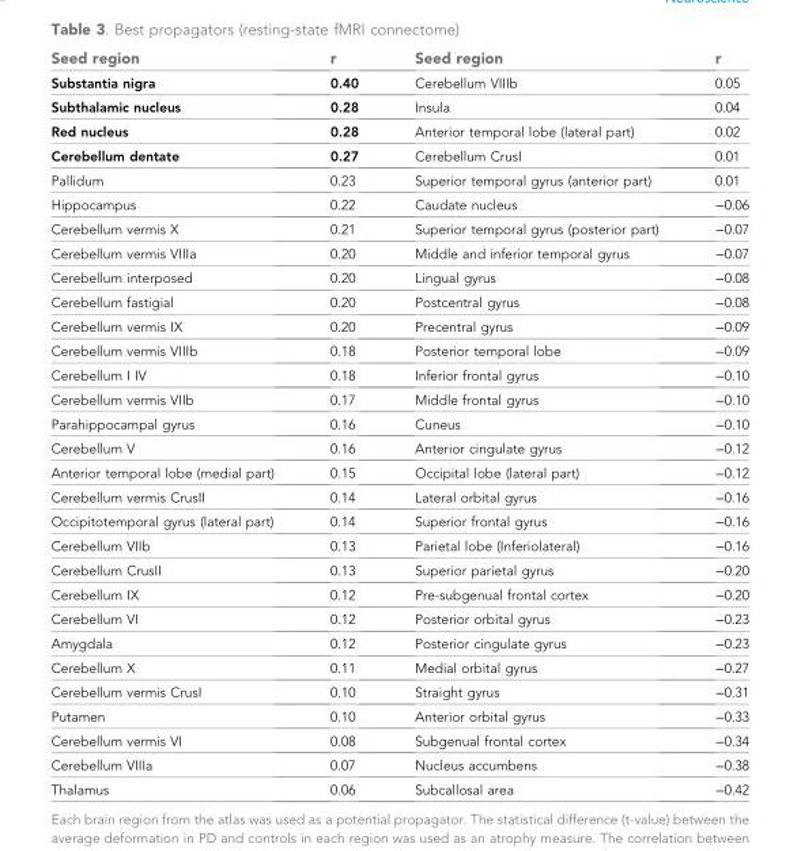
<table><thead><tr><td>Seed region</td><td>r</td><td>Seed region</td><td>r</td></tr></thead><tbody><tr><td>Substantia nigra</td><td>0.40</td><td>Cerebellum VIIIb</td><td>0.05</td></tr><tr><td>Subthalamic nucleus</td><td>0.28</td><td>Insula</td><td>0.04</td></tr><tr><td>Red nucleus</td><td>0.28</td><td>Anterior temporal lobe (lateral part)</td><td>0.02</td></tr><tr><td>Cerebellum dentate</td><td>0.27</td><td>Cerebellum CrusI</td><td>0.01</td></tr><tr><td>Pallidum</td><td>0.23</td><td>Superior temporal gyrus (anterior part)</td><td>0.01</td></tr><tr><td>Hippocampus</td><td>0.22</td><td>Caudate nucleus</td><td>−0.06</td></tr><tr><td>Cerebellum vermis X</td><td>0.21</td><td>Superior temporal gyrus (posterior part)</td><td>−0.07</td></tr><tr><td>Cerebellum vermis VIIIa</td><td>0.20</td><td>Middle and inferior temporal gyrus</td><td>−0.07</td></tr><tr><td>Cerebellum interposed</td><td>0.20</td><td>Lingual gyrus</td><td>−0.08</td></tr><tr><td>Cerebellum fastigial</td><td>0.20</td><td>Postcentral gyrus</td><td>−0.08</td></tr><tr><td>Cerebellum vermis IX</td><td>0.20</td><td>Precentral gyrus</td><td>−0.09</td></tr><tr><td>Cerebellum vermis VIIIb</td><td>0.18</td><td>Posterior temporal lobe</td><td>−0.09</td></tr><tr><td>Cerebellum I IV</td><td>0.18</td><td>Inferior frontal gyrus</td><td>−0.10</td></tr><tr><td>Cerebellum vermis VIIb</td><td>0.17</td><td>Middle frontal gyrus</td><td>−0.10</td></tr><tr><td>Parahippocampal gyrus</td><td>0.16</td><td>Cuneus</td><td>−0.10</td></tr><tr><td>Cerebellum V</td><td>0.16</td><td>Anterior cingulate gyrus</td><td>−0.12</td></tr><tr><td>Anterior temporal lobe (medial part)</td><td>0.15</td><td>Occipital lobe (lateral part)</td><td>−0.12</td></tr><tr><td>Cerebellum vermis CrusII</td><td>0.14</td><td>Lateral orbital gyrus</td><td>−0.16</td></tr><tr><td>Occipitotemporal gyrus (lateral part)</td><td>0.14</td><td>Superior frontal gyrus</td><td>−0.16</td></tr><tr><td>Cerebellum VIIb</td><td>0.13</td><td>Parietal lobe (Inferiolateral)</td><td>−0.16</td></tr><tr><td>Cerebellum CrusII</td><td>0.13</td><td>Superior parietal gyrus</td><td>−0.20</td></tr><tr><td>Cerebellum IX</td><td>0.12</td><td>Pre-subgenual frontal cortex</td><td>−0.20</td></tr><tr><td>Cerebellum VI</td><td>0.12</td><td>Posterior orbital gyrus</td><td>−0.23</td></tr><tr><td>Amygdala</td><td>0.12</td><td>Posterior cingulate gyrus</td><td>−0.23</td></tr><tr><td>Cerebellum X</td><td>0.11</td><td>Medial orbital gyrus</td><td>−0.27</td></tr><tr><td>Cerebellum vermis CrusI</td><td>0.10</td><td>Straight gyrus</td><td>−0.31</td></tr><tr><td>Putamen</td><td>0.10</td><td>Anterior orbital gyrus</td><td>−0.33</td></tr><tr><td>Cerebellum vermis VI</td><td>0.08</td><td>Subgenual frontal cortex</td><td>−0.34</td></tr><tr><td>Cerebellum VIIIa</td><td>0.07</td><td>Nucleus accumbens</td><td>−0.38</td></tr><tr><td>Thalamus</td><td>0.06</td><td>Subcallosal area</td><td>−0.42</td></tr></tbody></table>